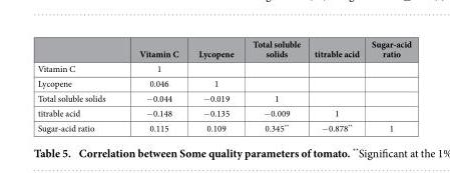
<table><thead><tr><td></td><td>Vitamin C</td><td>Lycopene</td><td>Total soluble solids</td><td>titrable acid</td><td>Sugar-acid ratio</td></tr></thead><tbody><tr><td>Vitamin C</td><td>1</td><td></td><td></td><td></td><td></td></tr><tr><td>Lycopene</td><td>0.046</td><td>1</td><td></td><td></td><td></td></tr><tr><td>Total soluble solids</td><td>− 0.044</td><td>− 0.019</td><td>1</td><td></td><td></td></tr><tr><td>titrable acid</td><td>− 0.148</td><td>− 0.135</td><td>− 0.009</td><td>1</td><td></td></tr><tr><td>Sugar-acid ratio</td><td>0.115</td><td>0.109</td><td>0.345**</td><td>− 0.878**</td><td>1</td></tr></tbody></table>